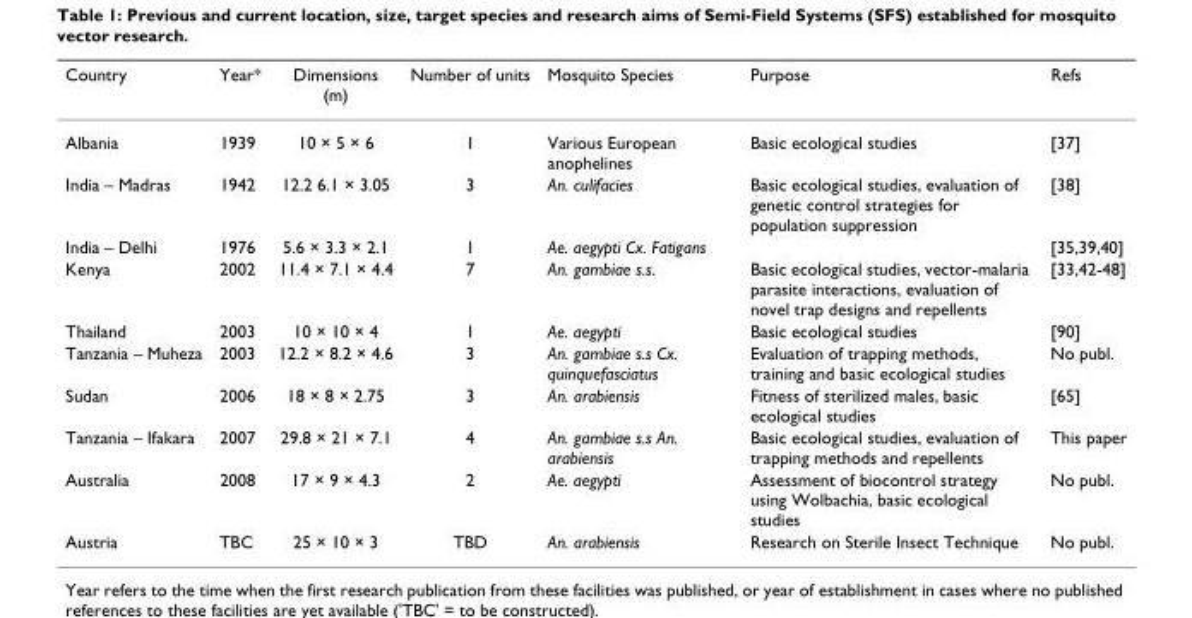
<table><thead><tr><td>Country</td><td>Year*</td><td>Dimensions (m)</td><td>Number of units</td><td>Mosquito Species</td><td>Purpose</td><td>Refs</td></tr></thead><tbody><tr><td>Albania</td><td>1939</td><td>10 × 5 × 6</td><td>1</td><td>Various European anophelines</td><td>Basic ecological studies</td><td>[37]</td></tr><tr><td>India – Madras</td><td>1942</td><td>12.2 6.1 × 3.05</td><td>3</td><td>An. culifacies</td><td>Basic ecological studies, evaluation of genetic control strategies for population suppression</td><td>[38]</td></tr><tr><td>India – Delhi</td><td>1976</td><td>5.6 × 3.3 × 2.1</td><td>1</td><td>Ae. aegypti Cx. Fatigans</td><td></td><td>[35,39,40]</td></tr><tr><td>Kenya</td><td>2002</td><td>11.4 × 7.1 × 4.4</td><td>7</td><td>An. gambiae s.s.</td><td>Basic ecological studies, vector-malaria parasite interactions, evaluation of novel trap designs and repellents</td><td>[33,42-48]</td></tr><tr><td>Thailand</td><td>2003</td><td>10 × 10 × 4</td><td>1</td><td>Ae. aegypti</td><td>Basic ecological studies</td><td>[90]</td></tr><tr><td>Tanzania – Muheza</td><td>2003</td><td>12.2 × 8.2 × 4.6</td><td>3</td><td>An. gambiae s.s Cx. quinquefasciatus</td><td>Evaluation of trapping methods, training and basic ecological studies</td><td>No publ.</td></tr><tr><td>Sudan</td><td>2006</td><td>18 × 8 × 2.75</td><td>3</td><td>An. arabiensis</td><td>Fitness of sterilized males, basic ecological studies</td><td>[65]</td></tr><tr><td>Tanzania – Ifakara</td><td>2007</td><td>29.8 × 21 × 7.1</td><td>4</td><td>An. gambiae s.s An. arabiensis</td><td>Basic ecological studies, evaluation of trapping methods and repellents</td><td>This paper</td></tr><tr><td>Australia</td><td>2008</td><td>17 × 9 × 4.3</td><td>2</td><td>Ae. aegypti</td><td>Assessment of biocontrol strategy using Wolbachia, basic ecological studies</td><td>No publ.</td></tr><tr><td>Austria</td><td>TBC</td><td>25 × 10 × 3</td><td>TBD</td><td>An. arabiensis</td><td>Research on Sterile Insect Technique</td><td>No publ.</td></tr></tbody></table>